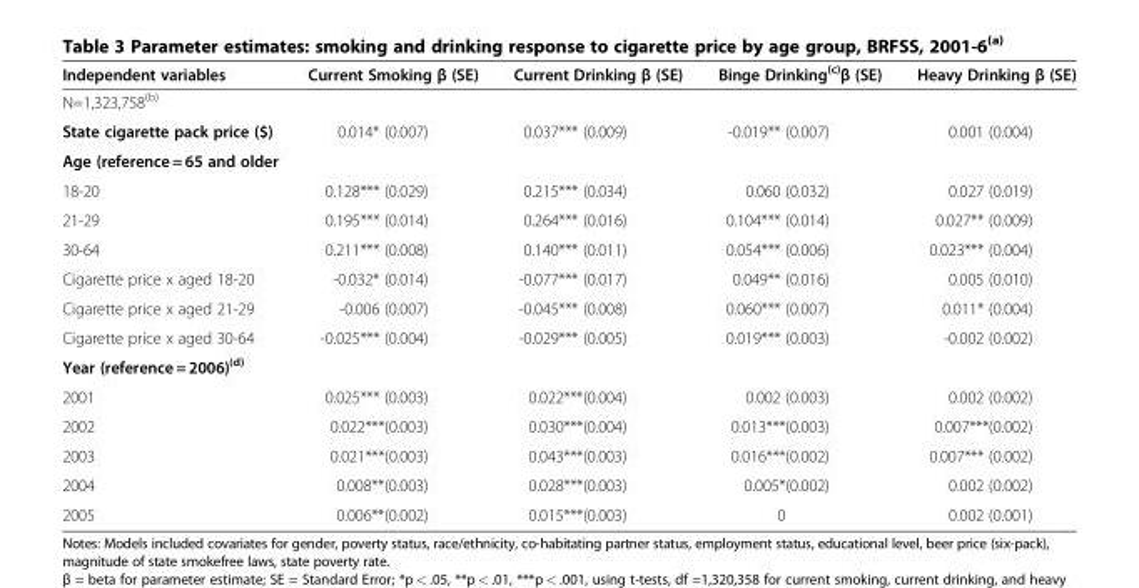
<table><thead><tr><td>Independent variables</td><td>Current Smoking β (SE)</td><td>Current Drinking β (SE)</td><td>Binge Drinking<sup>(c)</sup>β (SE)</td><td>Heavy Drinking β (SE)</td></tr></thead><tbody><tr><td colspan="5">N=1,323,758<sup>(b)</sup></td></tr><tr><td>State cigarette pack price ($)</td><td>0.014* (0.007)</td><td>0.037*** (0.009)</td><td>-0.019** (0.007)</td><td>0.001 (0.004)</td></tr><tr><td colspan="5">Age (reference = 65 and older</td></tr><tr><td>18-20</td><td>0.128*** (0.029)</td><td>0.215*** (0.034)</td><td>0.060 (0.032)</td><td>0.027 (0.019)</td></tr><tr><td>21-29</td><td>0.195*** (0.014)</td><td>0.264*** (0.016)</td><td>0.104*** (0.014)</td><td>0.027** (0.009)</td></tr><tr><td>30-64</td><td>0.211*** (0.008)</td><td>0.140*** (0.011)</td><td>0.054*** (0.006)</td><td>0.023*** (0.004)</td></tr><tr><td>Cigarette price x aged 18-20</td><td>-0.032* (0.014)</td><td>-0.077*** (0.017)</td><td>0.049** (0.016)</td><td>0.005 (0.010)</td></tr><tr><td>Cigarette price x aged 21-29</td><td>-0.006 (0.007)</td><td>-0.045*** (0.008)</td><td>0.060*** (0.007)</td><td>0.011* (0.004)</td></tr><tr><td>Cigarette price x aged 30-64</td><td>-0.025*** (0.004)</td><td>-0.029*** (0.005)</td><td>0.019*** (0.003)</td><td>-0.002 (0.002)</td></tr><tr><td colspan="5">Year (reference = 2006)<sup>(d)</sup></td></tr><tr><td>2001</td><td>0.025*** (0.003)</td><td>0.022***(0.004)</td><td>0.002 (0.003)</td><td>0.002 (0.002)</td></tr><tr><td>2002</td><td>0.022***(0.003)</td><td>0.030***(0.004)</td><td>0.013***(0.003)</td><td>0.007***(0.002)</td></tr><tr><td>2003</td><td>0.021***(0.003)</td><td>0.043***(0.003)</td><td>0.016***(0.002)</td><td>0.007*** (0.002)</td></tr><tr><td>2004</td><td>0.008**(0.003)</td><td>0.028***(0.003)</td><td>0.005*(0.002)</td><td>0.002 (0.002)</td></tr><tr><td>2005</td><td>0.006**(0.002)</td><td>0.015***(0.003)</td><td>0</td><td>0.002 (0.001)</td></tr></tbody></table>